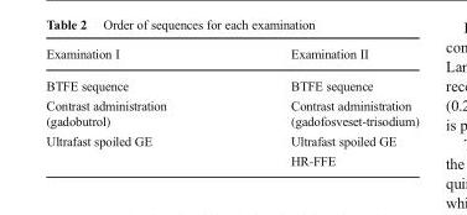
<table><thead><tr><td>Examination I</td><td>Examination II</td></tr></thead><tbody><tr><td>BTFE sequence</td><td>BTFE sequence</td></tr><tr><td>Contrast administration (gadobutrol)</td><td>Contrast administration (gadofosveset-trisodium)</td></tr><tr><td rowspan="2">Ultrafast spoiled GE</td><td>Ultrafast spoiled GE</td></tr><tr><td>HR-FFE</td></tr></tbody></table>